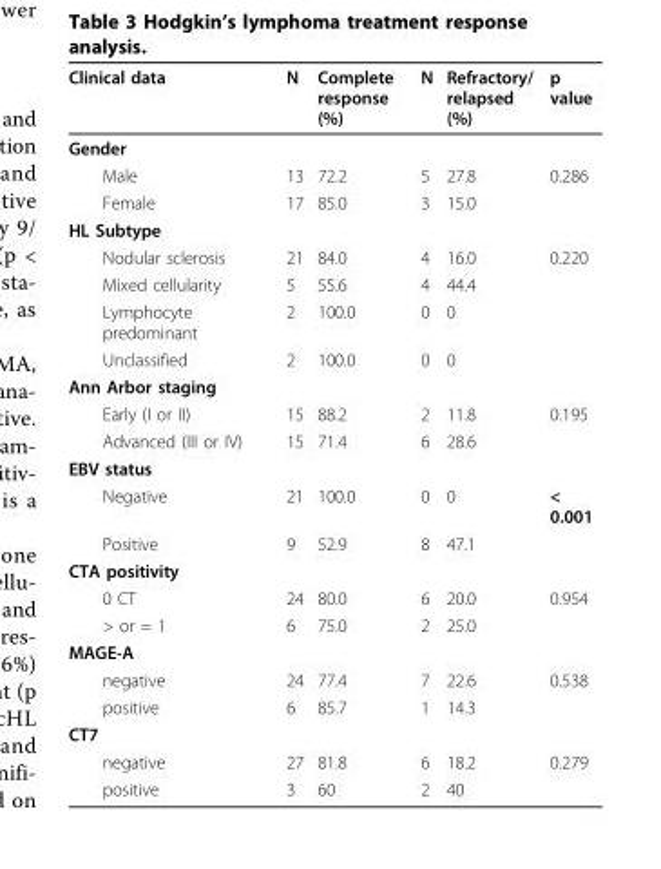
<table><thead><tr><td>Clinical data</td><td>N</td><td>Complete response (%)</td><td>N</td><td>Refractory/ relapsed (%)</td><td>p value</td></tr></thead><tbody><tr><td colspan="6">Gender</td></tr><tr><td>Male</td><td>13</td><td>72.2</td><td>5</td><td>27.8</td><td>0.286</td></tr><tr><td>Female</td><td>17</td><td>85.0</td><td>3</td><td>15.0</td><td></td></tr><tr><td colspan="6">HL Subtype</td></tr><tr><td>Nodular sclerosis</td><td>21</td><td>84.0</td><td>4</td><td>16.0</td><td>0.220</td></tr><tr><td>Mixed cellularity</td><td>5</td><td>55.6</td><td>4</td><td>44.4</td><td></td></tr><tr><td>Lymphocyte predominant</td><td>2</td><td>100.0</td><td>0</td><td>0</td><td></td></tr><tr><td>Unclassified</td><td>2</td><td>100.0</td><td>0</td><td>0</td><td></td></tr><tr><td colspan="6">Ann Arbor staging</td></tr><tr><td>Early (I or II)</td><td>15</td><td>88.2</td><td>2</td><td>11.8</td><td>0.195</td></tr><tr><td>Advanced (III or IV)</td><td>15</td><td>71.4</td><td>6</td><td>28.6</td><td></td></tr><tr><td colspan="6">EBV status</td></tr><tr><td>Negative</td><td>21</td><td>100.0</td><td>0</td><td>0</td><td>&lt; 0.001</td></tr><tr><td>Positive</td><td>9</td><td>52.9</td><td>8</td><td>47.1</td><td></td></tr><tr><td colspan="6">CTA positivity</td></tr><tr><td>0 CT</td><td>24</td><td>80.0</td><td>6</td><td>20.0</td><td>0.954</td></tr><tr><td>&gt; or = 1</td><td>6</td><td>75.0</td><td>2</td><td>25.0</td><td></td></tr><tr><td colspan="6">MAGE-A</td></tr><tr><td>negative</td><td>24</td><td>77.4</td><td>7</td><td>22.6</td><td>0.538</td></tr><tr><td>positive</td><td>6</td><td>85.7</td><td>1</td><td>14.3</td><td></td></tr><tr><td colspan="6">CT7</td></tr><tr><td>negative</td><td>27</td><td>81.8</td><td>6</td><td>18.2</td><td>0.279</td></tr><tr><td>positive</td><td>3</td><td>60</td><td>2</td><td>40</td><td></td></tr></tbody></table>